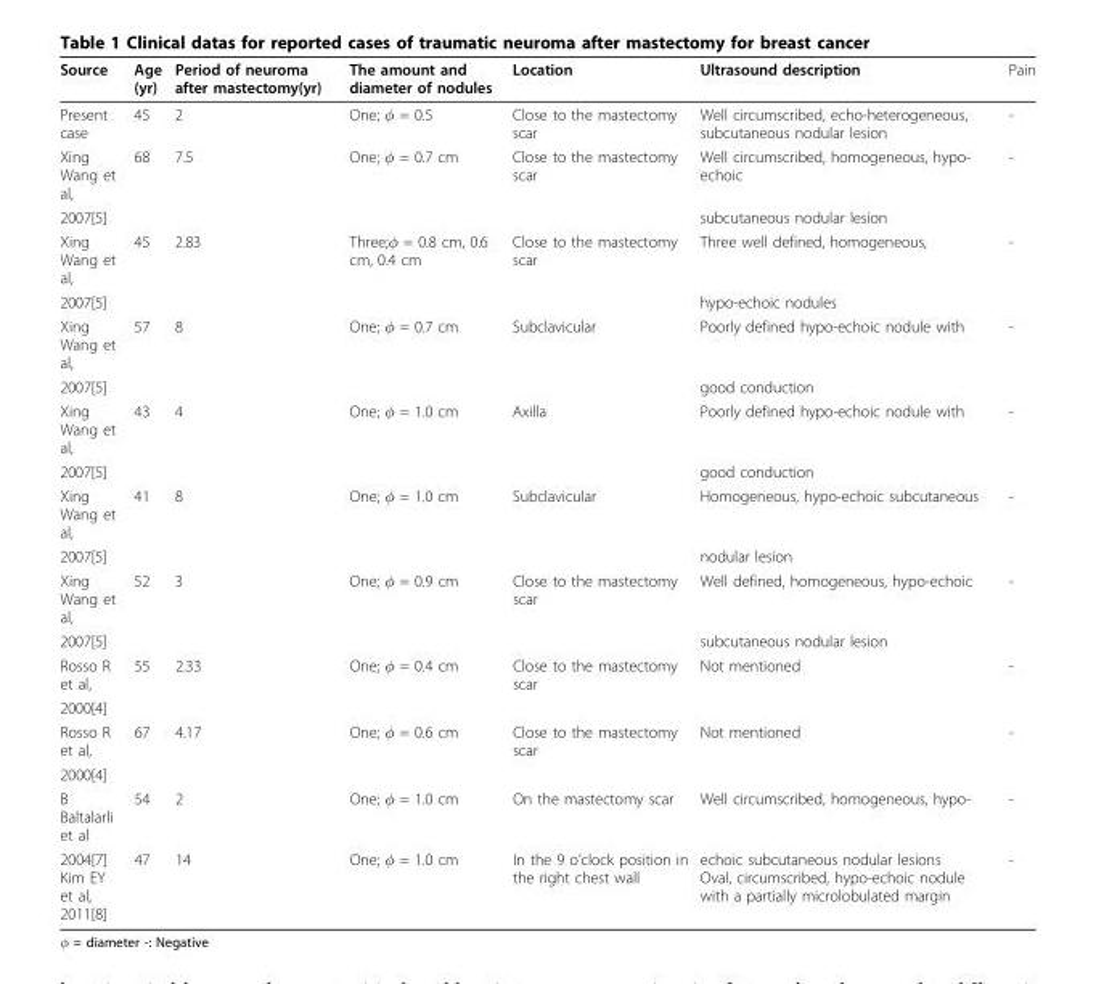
<table><thead><tr><td>Source</td><td>Age (yr)</td><td>Period of neuroma after mastectomy(yr)</td><td>The amount and diameter of nodules</td><td>Location</td><td>Ultrasound description</td><td>Pain</td></tr></thead><tbody><tr><td>Present case</td><td>45</td><td>2</td><td>One; φ = 0.5</td><td>Close to the mastectomy scar</td><td>Well circumscribed, echo-heterogeneous, subcutaneous nodular lesion</td><td>-</td></tr><tr><td>Xing Wang et al,</td><td>68</td><td>7.5</td><td>One; φ = 0.7 cm</td><td>Close to the mastectomy scar</td><td>Well circumscribed, homogeneous, hypo- echoic</td><td>-</td></tr><tr><td>2007[5]</td><td></td><td></td><td></td><td></td><td>subcutaneous nodular lesion</td><td></td></tr><tr><td>Xing Wang et al,</td><td>45</td><td>2.83</td><td>Three;φ = 0.8 cm, 0.6 cm, 0.4 cm</td><td>Close to the mastectomy scar</td><td>Three well defined, homogeneous,</td><td>-</td></tr><tr><td>2007[5]</td><td></td><td></td><td></td><td></td><td>hypo-echoic nodules</td><td></td></tr><tr><td>Xing Wang et al,</td><td>57</td><td>8</td><td>One; φ = 0.7 cm</td><td>Subclavicular</td><td>Poorly defined hypo-echoic nodule with</td><td>-</td></tr><tr><td>2007[5]</td><td></td><td></td><td></td><td></td><td>good conduction</td><td></td></tr><tr><td>Xing Wang et al,</td><td>43</td><td>4</td><td>One; φ = 1.0 cm</td><td>Axilla</td><td>Poorly defined hypo-echoic nodule with</td><td>-</td></tr><tr><td>2007[5]</td><td></td><td></td><td></td><td></td><td>good conduction</td><td></td></tr><tr><td>Xing Wang et al,</td><td>41</td><td>8</td><td>One; φ = 1.0 cm</td><td>Subclavicular</td><td>Homogeneous, hypo-echoic subcutaneous</td><td>-</td></tr><tr><td>2007[5]</td><td></td><td></td><td></td><td></td><td>nodular lesion</td><td></td></tr><tr><td>Xing Wang et al,</td><td>52</td><td>3</td><td>One; φ = 0.9 cm</td><td>Close to the mastectomy scar</td><td>Well defined, homogeneous, hypo-echoic</td><td>-</td></tr><tr><td>2007[5]</td><td></td><td></td><td></td><td></td><td>subcutaneous nodular lesion</td><td></td></tr><tr><td>Rosso R et al,</td><td>55</td><td>2.33</td><td>One; φ = 0.4 cm</td><td>Close to the mastectomy scar</td><td>Not mentioned</td><td>-</td></tr><tr><td colspan="7">2000[4]</td></tr><tr><td>Rosso R et al,</td><td>67</td><td>4.17</td><td>One; φ = 0.6 cm</td><td>Close to the mastectomy scar</td><td>Not mentioned</td><td>-</td></tr><tr><td colspan="7">2000[4]</td></tr><tr><td>B Baltalarli et al</td><td>54</td><td>2</td><td>One; φ = 1.0 cm</td><td>On the mastectomy scar</td><td>Well circumscribed, homogeneous, hypo-</td><td>-</td></tr><tr><td>2004[7] Kim EY et al, 2011[8]</td><td>47</td><td>14</td><td>One; φ = 1.0 cm</td><td>In the 9 o’clock position in the right chest wall</td><td>echoic subcutaneous nodular lesions Oval, circumscribed, hypo-echoic nodule with a partially microlobulated margin</td><td>-</td></tr></tbody></table>